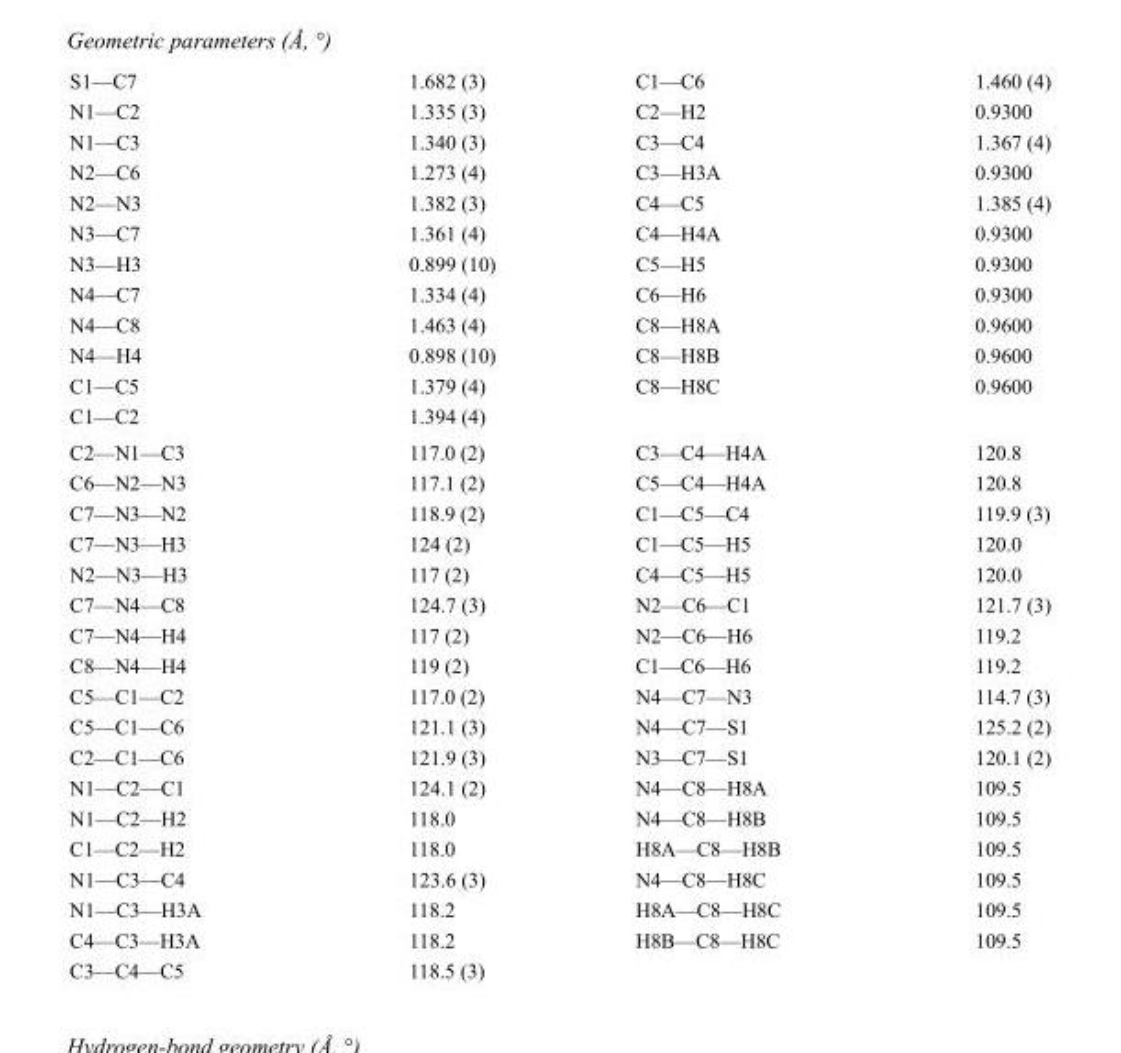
<table><tbody><tr><td>S1—C7</td><td>1.682 (3)</td><td>C1—C6</td><td>1.460 (4)</td></tr><tr><td>N1—C2</td><td>1.335 (3)</td><td>C2—H2</td><td>0.9300</td></tr><tr><td>N1—C3</td><td>1.340 (3)</td><td>C3—C4</td><td>1.367 (4)</td></tr><tr><td>N2—C6</td><td>1.273 (4)</td><td>C3—H3A</td><td>0.9300</td></tr><tr><td>N2—N3</td><td>1.382 (3)</td><td>C4—C5</td><td>1.385 (4)</td></tr><tr><td>N3—C7</td><td>1.361 (4)</td><td>C4—H4A</td><td>0.9300</td></tr><tr><td>N3—H3</td><td>0.899 (10)</td><td>C5—H5</td><td>0.9300</td></tr><tr><td>N4—C7</td><td>1.334 (4)</td><td>C6—H6</td><td>0.9300</td></tr><tr><td>N4—C8</td><td>1.463 (4)</td><td>C8—H8A</td><td>0.9600</td></tr><tr><td>N4—H4</td><td>0.898 (10)</td><td>C8—H8B</td><td>0.9600</td></tr><tr><td>C1—C5</td><td>1.379 (4)</td><td>C8—H8C</td><td>0.9600</td></tr><tr><td>C1—C2</td><td>1.394 (4)</td><td></td><td></td></tr><tr><td>C2—N1—C3</td><td>117.0 (2)</td><td>C3—C4—H4A</td><td>120.8</td></tr><tr><td>C6—N2—N3</td><td>117.1 (2)</td><td>C5—C4—H4A</td><td>120.8</td></tr><tr><td>C7—N3—N2</td><td>118.9 (2)</td><td>C1—C5—C4</td><td>119.9 (3)</td></tr><tr><td>C7—N3—H3</td><td>124 (2)</td><td>C1—C5—H5</td><td>120.0</td></tr><tr><td>N2—N3—H3</td><td>117 (2)</td><td>C4—C5—H5</td><td>120.0</td></tr><tr><td>C7—N4—C8</td><td>124.7 (3)</td><td>N2—C6—C1</td><td>121.7 (3)</td></tr><tr><td>C7—N4—H4</td><td>117 (2)</td><td>N2—C6—H6</td><td>119.2</td></tr><tr><td>C8—N4—H4</td><td>119 (2)</td><td>C1—C6—H6</td><td>119.2</td></tr><tr><td>C5—C1—C2</td><td>117.0 (2)</td><td>N4—C7—N3</td><td>114.7 (3)</td></tr><tr><td>C5—C1—C6</td><td>121.1 (3)</td><td>N4—C7—S1</td><td>125.2 (2)</td></tr><tr><td>C2—C1—C6</td><td>121.9 (3)</td><td>N3—C7—S1</td><td>120.1 (2)</td></tr><tr><td>N1—C2—C1</td><td>124.1 (2)</td><td>N4—C8—H8A</td><td>109.5</td></tr><tr><td>N1—C2—H2</td><td>118.0</td><td>N4—C8—H8B</td><td>109.5</td></tr><tr><td>C1—C2—H2</td><td>118.0</td><td>H8A—C8—H8B</td><td>109.5</td></tr><tr><td>N1—C3—C4</td><td>123.6 (3)</td><td>N4—C8—H8C</td><td>109.5</td></tr><tr><td>N1—C3—H3A</td><td>118.2</td><td>H8A—C8—H8C</td><td>109.5</td></tr><tr><td>C4—C3—H3A</td><td>118.2</td><td>H8B—C8—H8C</td><td>109.5</td></tr><tr><td>C3—C4—C5</td><td>118.5 (3)</td><td></td><td></td></tr></tbody></table>